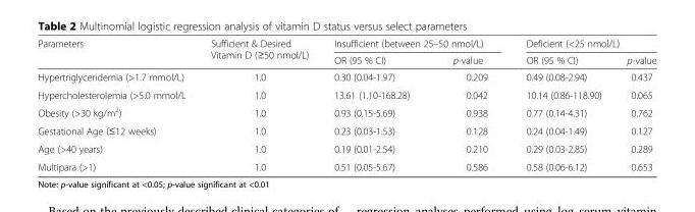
<table><thead><tr><td rowspan="2">Parameters</td><td rowspan="2">Sufficient &amp; Desired Vitamin D (≥50 nmol/L)</td><td colspan="2">Insufficient (between 25–50 nmol/L)</td><td colspan="2">Deficient (&lt;25 nmol/L)</td></tr><tr><td>OR (95 % CI)</td><td>p-value</td><td>OR (95 % CI)</td><td>p-value</td></tr></thead><tbody><tr><td>Hypertriglyceridemia (&gt;1.7 mmol/L)</td><td>1.0</td><td>0.30 (0.04-1.97)</td><td>0.209</td><td>0.49 (0.08-2.94)</td><td>0.437</td></tr><tr><td>Hypercholesterolemia (&gt;5.0 mmol/L</td><td>1.0</td><td>13.61 (1.10-168.28)</td><td>0.042</td><td>10.14 (0.86-118.90)</td><td>0.065</td></tr><tr><td>Obesity (&gt;30 kg/m<sup>2</sup>)</td><td>1.0</td><td>0.93 (0.15-5.69)</td><td>0.938</td><td>0.77 (0.14-4.31)</td><td>0.762</td></tr><tr><td>Gestational Age (≤12 weeks)</td><td>1.0</td><td>0.23 (0.03-1.53)</td><td>0.128</td><td>0.24 (0.04-1.49)</td><td>0.127</td></tr><tr><td>Age (&gt;40 years)</td><td>1.0</td><td>0.19 (0.01-2.54)</td><td>0.210</td><td>0.29 (0.03-2.85)</td><td>0.289</td></tr><tr><td>Multipara (&gt;1)</td><td>1.0</td><td>0.51 (0.05-5.67)</td><td>0.586</td><td>0.58 (0.06-6.12)</td><td>0.653</td></tr></tbody></table>